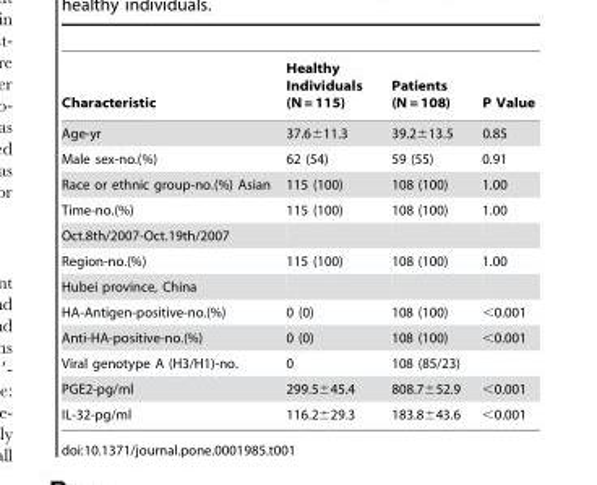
<table><thead><tr><td>Characteristic</td><td>Healthy Individuals (N = 115)</td><td>Patients (N = 108)</td><td>P Value</td></tr></thead><tbody><tr><td>Age-yr</td><td>37.6±11.3</td><td>39.2±13.5</td><td>0.85</td></tr><tr><td>Male sex-no.(%)</td><td>62 (54)</td><td>59 (55)</td><td>0.91</td></tr><tr><td>Race or ethnic group-no.(%) Asian</td><td>115 (100)</td><td>108 (100)</td><td>1.00</td></tr><tr><td>Time-no.(%)</td><td>115 (100)</td><td>108 (100)</td><td>1.00</td></tr><tr><td colspan="4">Oct.8th/2007-Oct.19th/2007</td></tr><tr><td>Region-no.(%)</td><td>115 (100)</td><td>108 (100)</td><td>1.00</td></tr><tr><td colspan="4">Hubei province, China</td></tr><tr><td>HA-Antigen-positive-no.(%)</td><td>0 (0)</td><td>108 (100)</td><td>&lt;0.001</td></tr><tr><td>Anti-HA-positive-no.(%)</td><td>0 (0)</td><td>108 (100)</td><td>&lt;0.001</td></tr><tr><td>Viral genotype A (H3/H1)-no.</td><td>0</td><td>108 (85/23)</td><td></td></tr><tr><td>PGE2-pg/ml</td><td>299.5±45.4</td><td>808.7±52.9</td><td>&lt;0.001</td></tr><tr><td>IL-32-pg/ml</td><td>116.2±29.3</td><td>183.8±43.6</td><td>&lt;0.001</td></tr></tbody></table>